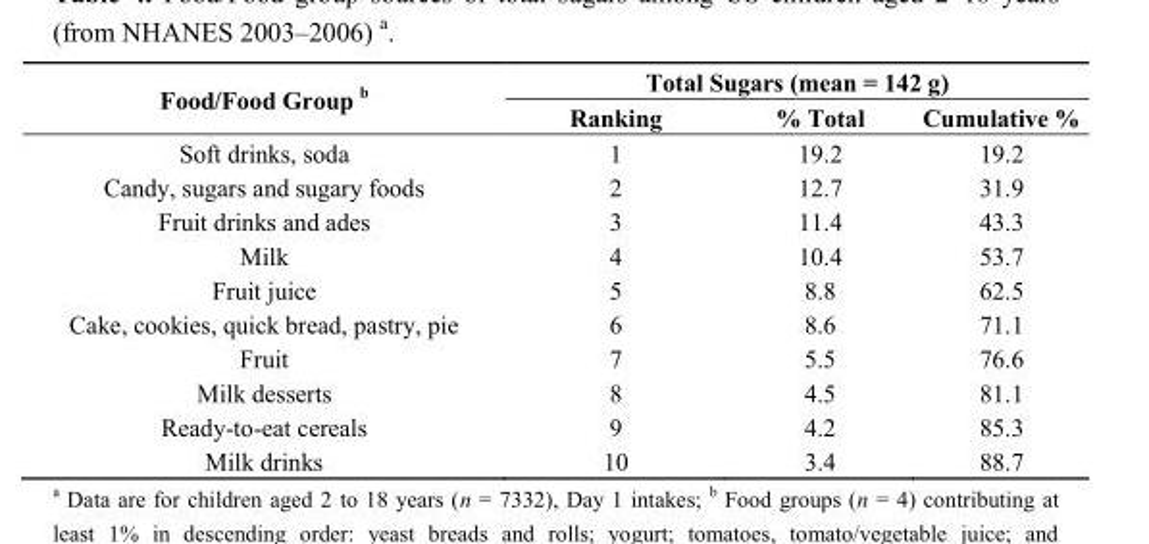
<table><thead><tr><td rowspan="2">Food/Food Group <sup>b</sup></td><td colspan="3">Total Sugars (mean = 142 g)</td></tr><tr><td>Ranking</td><td>% Total</td><td>Cumulative %</td></tr></thead><tbody><tr><td>Soft drinks, soda</td><td>1</td><td>19.2</td><td>19.2</td></tr><tr><td>Candy, sugars and sugary foods</td><td>2</td><td>12.7</td><td>31.9</td></tr><tr><td>Fruit drinks and ades</td><td>3</td><td>11.4</td><td>43.3</td></tr><tr><td>Milk</td><td>4</td><td>10.4</td><td>53.7</td></tr><tr><td>Fruit juice</td><td>5</td><td>8.8</td><td>62.5</td></tr><tr><td>Cake, cookies, quick bread, pastry, pie</td><td>6</td><td>8.6</td><td>71.1</td></tr><tr><td>Fruit</td><td>7</td><td>5.5</td><td>76.6</td></tr><tr><td>Milk desserts</td><td>8</td><td>4.5</td><td>81.1</td></tr><tr><td>Ready-to-eat cereals</td><td>9</td><td>4.2</td><td>85.3</td></tr><tr><td>Milk drinks</td><td>10</td><td>3.4</td><td>88.7</td></tr></tbody></table>